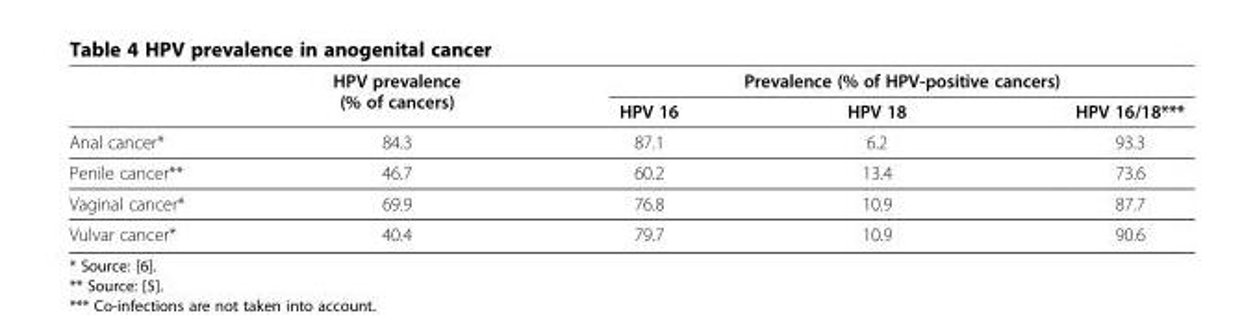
<table><thead><tr><td rowspan="2"></td><td rowspan="2">HPV prevalence (% of cancers)</td><td colspan="3">Prevalence (% of HPV-positive cancers)</td></tr><tr><td>HPV 16</td><td>HPV 18</td><td>HPV 16/18***</td></tr></thead><tbody><tr><td>Anal cancer*</td><td>84.3</td><td>87.1</td><td>6.2</td><td>93.3</td></tr><tr><td>Penile cancer**</td><td>46.7</td><td>60.2</td><td>13.4</td><td>73.6</td></tr><tr><td>Vaginal cancer*</td><td>69.9</td><td>76.8</td><td>10.9</td><td>87.7</td></tr><tr><td>Vulvar cancer*</td><td>40.4</td><td>79.7</td><td>10.9</td><td>90.6</td></tr></tbody></table>